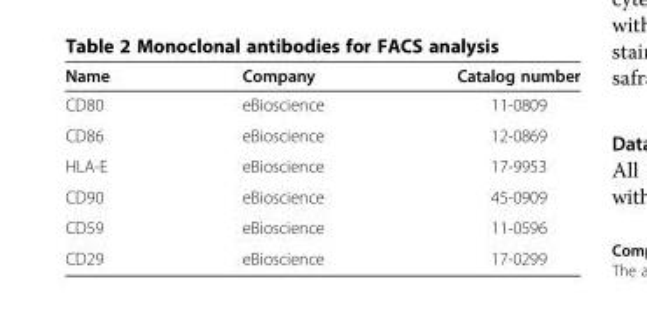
<table><thead><tr><td>Name</td><td>Company</td><td>Catalog number</td></tr></thead><tbody><tr><td>CD80</td><td>eBioscience</td><td>11-0809</td></tr><tr><td>CD86</td><td>eBioscience</td><td>12-0869</td></tr><tr><td>HLA-E</td><td>eBioscience</td><td>17-9953</td></tr><tr><td>CD90</td><td>eBioscience</td><td>45-0909</td></tr><tr><td>CD59</td><td>eBioscience</td><td>11-0596</td></tr><tr><td>CD29</td><td>eBioscience</td><td>17-0299</td></tr></tbody></table>